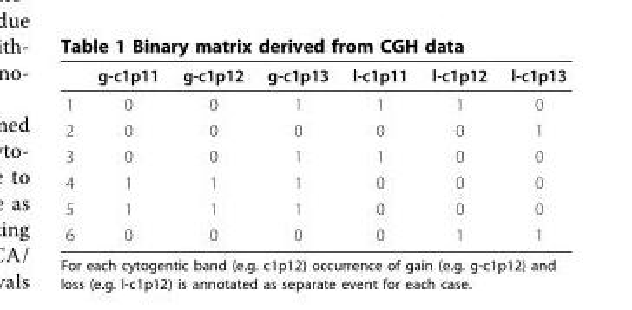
<table><thead><tr><td></td><td>g-c1p11</td><td>g-c1p12</td><td>g-c1p13</td><td>l-c1p11</td><td>l-c1p12</td><td>l-c1p13</td></tr></thead><tbody><tr><td>1</td><td>0</td><td>0</td><td>1</td><td>1</td><td>1</td><td>0</td></tr><tr><td>2</td><td>0</td><td>0</td><td>0</td><td>0</td><td>0</td><td>1</td></tr><tr><td>3</td><td>0</td><td>0</td><td>1</td><td>1</td><td>0</td><td>0</td></tr><tr><td>4</td><td>1</td><td>1</td><td>1</td><td>0</td><td>0</td><td>0</td></tr><tr><td>5</td><td>1</td><td>1</td><td>1</td><td>0</td><td>0</td><td>0</td></tr><tr><td>6</td><td>0</td><td>0</td><td>0</td><td>0</td><td>1</td><td>1</td></tr></tbody></table>